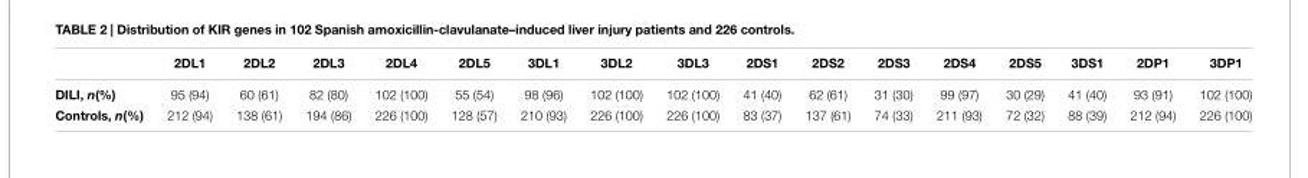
<table><thead><tr><td></td><td>2DL1</td><td>2DL2</td><td>2DL3</td><td>2DL4</td><td>2DL5</td><td>3DL1</td><td>3DL2</td><td>3DL3</td><td>2DS1</td><td>2DS2</td><td>2DS3</td><td>2DS4</td><td>2DS5</td><td>3DS1</td><td>2DP1</td><td>3DP1</td></tr></thead><tbody><tr><td>DILI, n(%)</td><td>95 (94)</td><td>60 (61)</td><td>82 (80)</td><td>102 (100)</td><td>55 (54)</td><td>98 (96)</td><td>102 (100)</td><td>102 (100)</td><td>41 (40)</td><td>62 (61)</td><td>31 (30)</td><td>99 (97)</td><td>30 (29)</td><td>41 (40)</td><td>93 (91)</td><td>102 (100)</td></tr><tr><td>Controls, n(%)</td><td>212 (94)</td><td>138 (61)</td><td>194 (86)</td><td>226 (100)</td><td>128 (57)</td><td>210 (93)</td><td>226 (100)</td><td>226 (100)</td><td>83 (37)</td><td>137 (61)</td><td>74 (33)</td><td>211 (93)</td><td>72 (32)</td><td>88 (39)</td><td>212 (94)</td><td>226 (100)</td></tr></tbody></table>